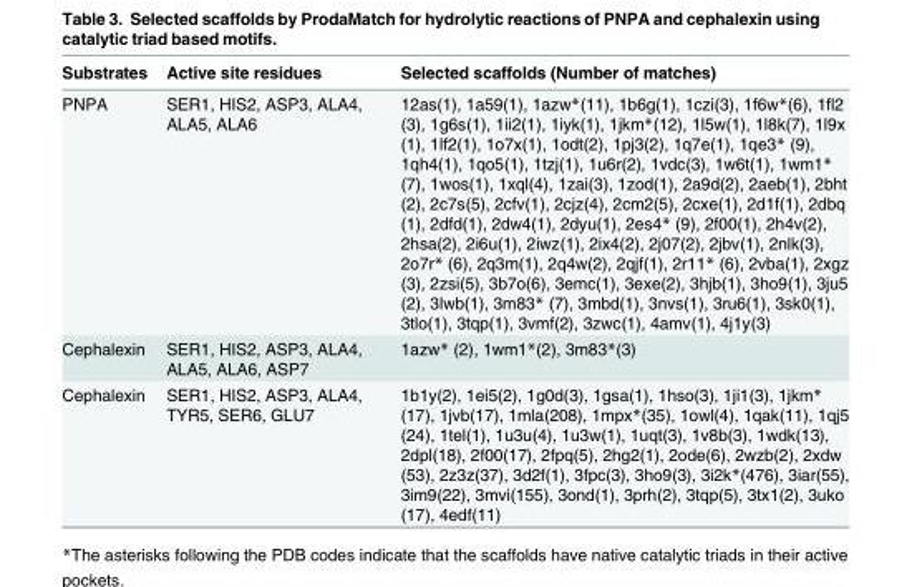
<table><thead><tr><td>Substrates</td><td>Active site residues</td><td>Selected scaffolds (Number of matches)</td></tr></thead><tbody><tr><td>PNPA</td><td>SER1, HIS2, ASP3, ALA4, ALA5, ALA6</td><td>12as(1), 1a59(1), 1azw*(11), 1b6g(1), 1czi(3), 1f6w*(6), 1fl2 (3), 1g6s(1), 1ii2(1), 1iyk(1), 1jkm*(12), 1l5w(1), 1l8k(7), 1l9x (1), 1lf2(1), 1o7x(1), 1odt(2), 1pj3(2), 1q7e(1), 1qe3* (9), 1qh4(1), 1qo5(1), 1tzj(1), 1u6r(2), 1vdc(3), 1w6t(1), 1wm1* (7), 1wos(1), 1xql(4), 1zai(3), 1zod(1), 2a9d(2), 2aeb(1), 2bht (2), 2c7s(5), 2cfv(1), 2cjz(4), 2cm2(5), 2cxe(1), 2d1f(1), 2dbq (1), 2dfd(1), 2dw4(1), 2dyu(1), 2es4* (9), 2f00(1), 2h4v(2), 2hsa(2), 2i6u(1), 2iwz(1), 2ix4(2), 2j07(2), 2jbv(1), 2nlk(3), 2o7r* (6), 2q3m(1), 2q4w(2), 2qjf(1), 2r11* (6), 2vba(1), 2xgz (3), 2zsi(5), 3b7o(6), 3emc(1), 3exe(2), 3hjb(1), 3ho9(1), 3ju5 (2), 3lwb(1), 3m83* (7), 3mbd(1), 3nvs(1), 3ru6(1), 3sk0(1), 3tlo(1), 3tqp(1), 3vmf(2), 3zwc(1), 4amv(1), 4j1y(3)</td></tr><tr><td>Cephalexin</td><td>SER1, HIS2, ASP3, ALA4, ALA5, ALA6, ASP7</td><td>1azw* (2), 1wm1*(2), 3m83*(3)</td></tr><tr><td>Cephalexin</td><td>SER1, HIS2, ASP3, ALA4, TYR5, SER6, GLU7</td><td>1b1y(2), 1ei5(2), 1g0d(3), 1gsa(1), 1hso(3), 1ji1(3), 1jkm* (17), 1jvb(17), 1mla(208), 1mpx*(35), 1owl(4), 1qak(11), 1qj5 (24), 1tel(1), 1u3u(4), 1u3w(1), 1uqt(3), 1v8b(3), 1wdk(13), 2dpl(18), 2f00(17), 2fpq(5), 2hg2(1), 2ode(6), 2wzb(2), 2xdw (53), 2z3z(37), 3d2f(1), 3fpc(3), 3ho9(3), 3i2k*(476), 3iar(55), 3im9(22), 3mvi(155), 3ond(1), 3prh(2), 3tqp(5), 3tx1(2), 3uko (17), 4edf(11)</td></tr></tbody></table>